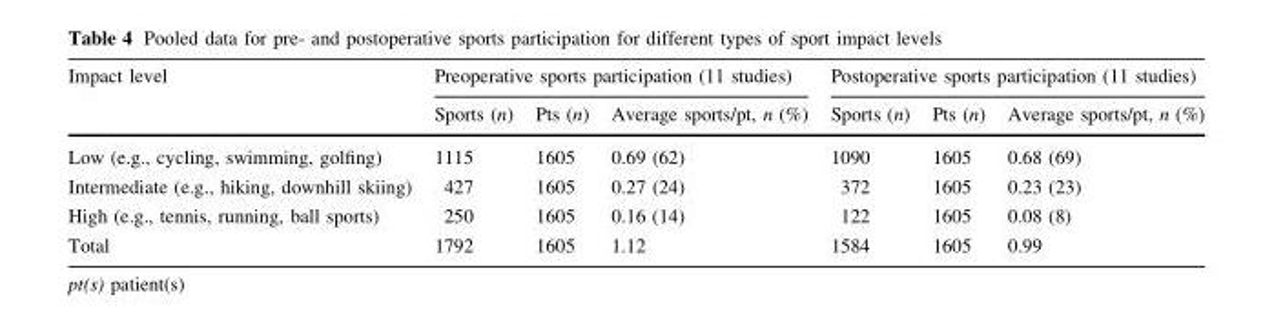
<table><thead><tr><td rowspan="2">Impact level</td><td colspan="3">Preoperative sports participation (11 studies)</td><td colspan="3">Postoperative sports participation (11 studies)</td></tr><tr><td>Sports (n)</td><td>Pts (n)</td><td>Average sports/pt, n (%)</td><td>Sports (n)</td><td>Pts (n)</td><td>Average sports/pt, n (%)</td></tr></thead><tbody><tr><td>Low (e.g., cycling, swimming, golfing)</td><td>1115</td><td>1605</td><td>0.69 (62)</td><td>1090</td><td>1605</td><td>0.68 (69)</td></tr><tr><td>Intermediate (e.g., hiking, downhill skiing)</td><td>427</td><td>1605</td><td>0.27 (24)</td><td>372</td><td>1605</td><td>0.23 (23)</td></tr><tr><td>High (e.g., tennis, running, ball sports)</td><td>250</td><td>1605</td><td>0.16 (14)</td><td>122</td><td>1605</td><td>0.08 (8)</td></tr><tr><td>Total</td><td>1792</td><td>1605</td><td>1.12</td><td>1584</td><td>1605</td><td>0.99</td></tr></tbody></table>